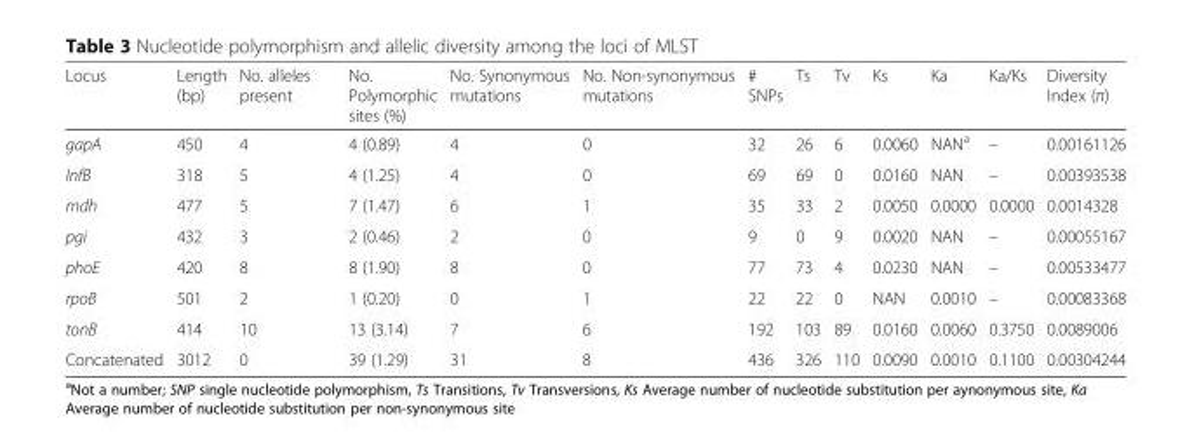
<table><thead><tr><td>Locus</td><td>Length (bp)</td><td>No. alleles present</td><td>No. Polymorphic sites (%)</td><td>No. Synonymous mutations</td><td>No. Non-synonymous mutations</td><td># SNPs</td><td>Ts</td><td>Tv</td><td>Ks</td><td>Ka</td><td>Ka/Ks</td><td>Diversity Index (π)</td></tr></thead><tbody><tr><td>gapA</td><td>450</td><td>4</td><td>4 (0.89)</td><td>4</td><td>0</td><td>32</td><td>26</td><td>6</td><td>0.0060</td><td>NAN<sup>a</sup></td><td>–</td><td>0.00161126</td></tr><tr><td>InfB</td><td>318</td><td>5</td><td>4 (1.25)</td><td>4</td><td>0</td><td>69</td><td>69</td><td>0</td><td>0.0160</td><td>NAN</td><td>–</td><td>0.00393538</td></tr><tr><td>mdh</td><td>477</td><td>5</td><td>7 (1.47)</td><td>6</td><td>1</td><td>35</td><td>33</td><td>2</td><td>0.0050</td><td>0.0000</td><td>0.0000</td><td>0.0014328</td></tr><tr><td>pgi</td><td>432</td><td>3</td><td>2 (0.46)</td><td>2</td><td>0</td><td>9</td><td>0</td><td>9</td><td>0.0020</td><td>NAN</td><td>–</td><td>0.00055167</td></tr><tr><td>phoE</td><td>420</td><td>8</td><td>8 (1.90)</td><td>8</td><td>0</td><td>77</td><td>73</td><td>4</td><td>0.0230</td><td>NAN</td><td>–</td><td>0.00533477</td></tr><tr><td>rpoB</td><td>501</td><td>2</td><td>1 (0.20)</td><td>0</td><td>1</td><td>22</td><td>22</td><td>0</td><td>NAN</td><td>0.0010</td><td>–</td><td>0.00083368</td></tr><tr><td>tonB</td><td>414</td><td>10</td><td>13 (3.14)</td><td>7</td><td>6</td><td>192</td><td>103</td><td>89</td><td>0.0160</td><td>0.0060</td><td>0.3750</td><td>0.0089006</td></tr><tr><td>Concatenated</td><td>3012</td><td>0</td><td>39 (1.29)</td><td>31</td><td>8</td><td>436</td><td>326</td><td>110</td><td>0.0090</td><td>0.0010</td><td>0.1100</td><td>0.00304244</td></tr></tbody></table>